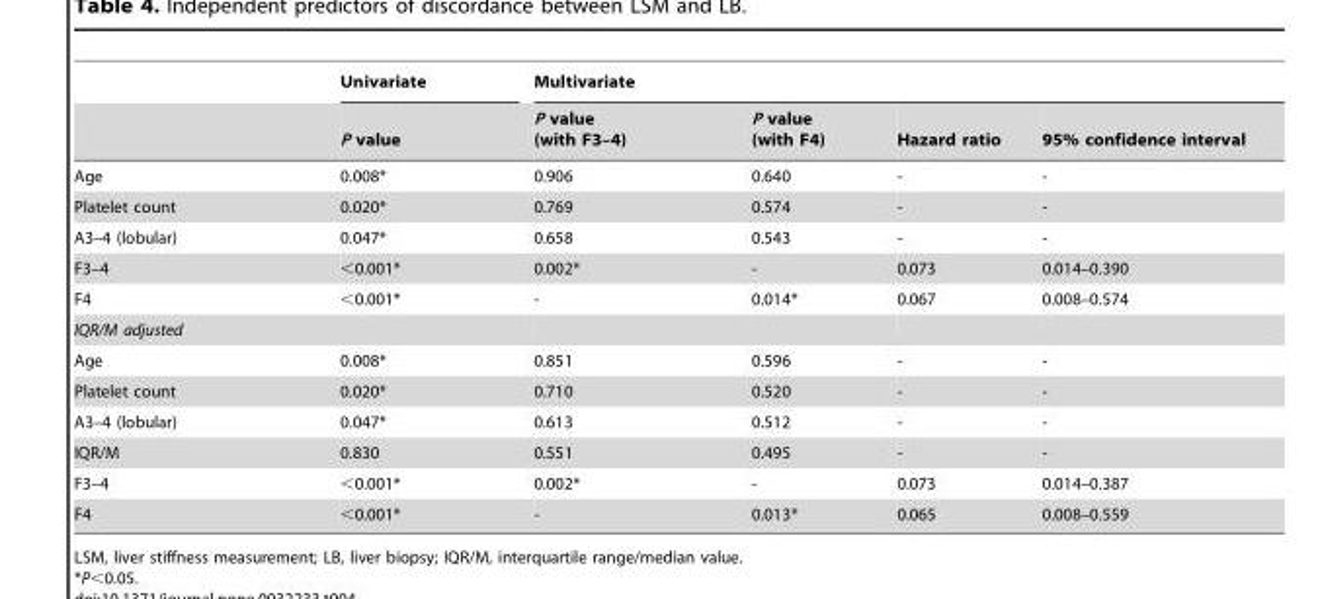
<table><thead><tr><td rowspan="2"></td><td rowspan="2">Univariate P value</td><td colspan="4">Multivariate</td></tr><tr><td>P value (with F3–4)</td><td>P value (with F4)</td><td>Hazard ratio</td><td>95% confidence interval</td></tr></thead><tbody><tr><td>Age</td><td>0.008*</td><td>0.906</td><td>0.640</td><td>-</td><td>-</td></tr><tr><td>Platelet count</td><td>0.020*</td><td>0.769</td><td>0.574</td><td>-</td><td>-</td></tr><tr><td>A3–4 (lobular)</td><td>0.047*</td><td>0.658</td><td>0.543</td><td>-</td><td>-</td></tr><tr><td>F3–4</td><td>&lt;0.001*</td><td>0.002*</td><td>-</td><td>0.073</td><td>0.014–0.390</td></tr><tr><td>F4</td><td>&lt;0.001*</td><td>-</td><td>0.014*</td><td>0.067</td><td>0.008–0.574</td></tr><tr><td colspan="6">IQR/M adjusted</td></tr><tr><td>Age</td><td>0.008*</td><td>0.851</td><td>0.596</td><td>-</td><td>-</td></tr><tr><td>Platelet count</td><td>0.020*</td><td>0.710</td><td>0.520</td><td>-</td><td>-</td></tr><tr><td>A3–4 (lobular)</td><td>0.047*</td><td>0.613</td><td>0.512</td><td>-</td><td>-</td></tr><tr><td>IQR/M</td><td>0.830</td><td>0.551</td><td>0.495</td><td>-</td><td>-</td></tr><tr><td>F3–4</td><td>&lt;0.001*</td><td>0.002*</td><td>-</td><td>0.073</td><td>0.014–0.387</td></tr><tr><td>F4</td><td>&lt;0.001*</td><td>-</td><td>0.013*</td><td>0.065</td><td>0.008–0.559</td></tr></tbody></table>